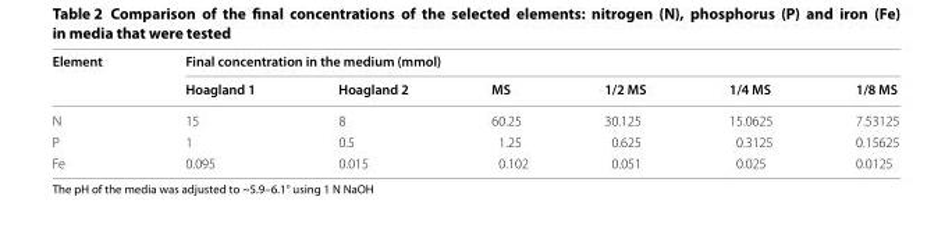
<table><thead><tr><td rowspan="2">Element</td><td colspan="6">Final concentration in the medium (mmol)</td></tr><tr><td>Hoagland 1</td><td>Hoagland 2</td><td>MS</td><td>1/2 MS</td><td>1/4 MS</td><td>1/8 MS</td></tr></thead><tbody><tr><td>N</td><td>15</td><td>8</td><td>60.25</td><td>30.125</td><td>15.0625</td><td>7.53125</td></tr><tr><td>P</td><td>1</td><td>0.5</td><td>1.25</td><td>0.625</td><td>0.3125</td><td>0.15625</td></tr><tr><td>Fe</td><td>0.095</td><td>0.015</td><td>0.102</td><td>0.051</td><td>0.025</td><td>0.0125</td></tr></tbody></table>